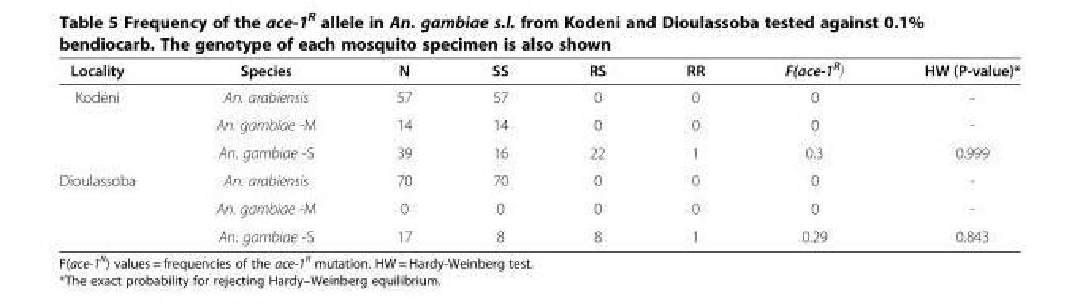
<table><thead><tr><td>Locality</td><td>Species</td><td>N</td><td>SS</td><td>RS</td><td>RR</td><td>F(ace-1<sup>R</sup>)</td><td>HW (P-value)*</td></tr></thead><tbody><tr><td rowspan="3">Kodéni</td><td>An. arabiensis</td><td>57</td><td>57</td><td>0</td><td>0</td><td>0</td><td>-</td></tr><tr><td>An. gambiae -M</td><td>14</td><td>14</td><td>0</td><td>0</td><td>0</td><td>-</td></tr><tr><td>An. gambiae -S</td><td>39</td><td>16</td><td>22</td><td>1</td><td>0.3</td><td>0.999</td></tr><tr><td rowspan="3">Dioulassoba</td><td>An. arabiensis</td><td>70</td><td>70</td><td>0</td><td>0</td><td>0</td><td>-</td></tr><tr><td>An. gambiae -M</td><td>0</td><td>0</td><td>0</td><td>0</td><td>0</td><td>-</td></tr><tr><td>An. gambiae -S</td><td>17</td><td>8</td><td>8</td><td>1</td><td>0.29</td><td>0.843</td></tr></tbody></table>